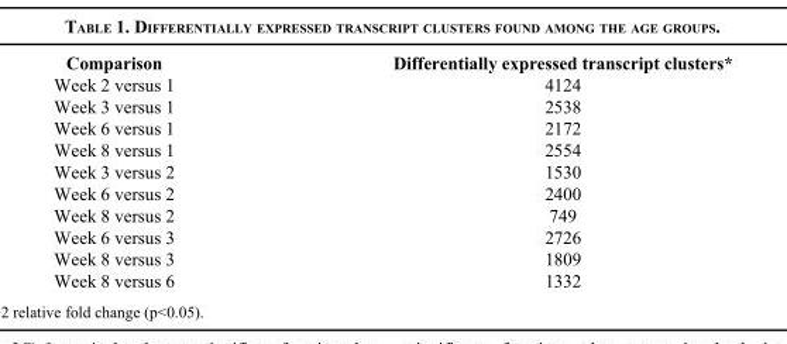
<table><thead><tr><td>Comparison</td><td>Differentially expressed transcript clusters*</td></tr></thead><tbody><tr><td>Week 2 versus 1</td><td>4124</td></tr><tr><td>Week 3 versus 1</td><td>2538</td></tr><tr><td>Week 6 versus 1</td><td>2172</td></tr><tr><td>Week 8 versus 1</td><td>2554</td></tr><tr><td>Week 3 versus 2</td><td>1530</td></tr><tr><td>Week 6 versus 2</td><td>2400</td></tr><tr><td>Week 8 versus 2</td><td>749</td></tr><tr><td>Week 6 versus 3</td><td>2726</td></tr><tr><td>Week 8 versus 3</td><td>1809</td></tr><tr><td>Week 8 versus 6</td><td>1332</td></tr></tbody></table>